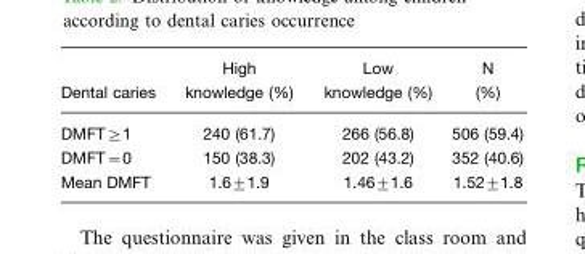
<table><thead><tr><td>Dental caries</td><td>High knowledge (%)</td><td>Low knowledge (%)</td><td>N (%)</td></tr></thead><tbody><tr><td>DMFT≥1</td><td>240 (61.7)</td><td>266 (56.8)</td><td>506 (59.4)</td></tr><tr><td>DMFT=0</td><td>150 (38.3)</td><td>202 (43.2)</td><td>352 (40.6)</td></tr><tr><td>Mean DMFT</td><td>1.6±1.9</td><td>1.46±1.6</td><td>1.52±1.8</td></tr></tbody></table>